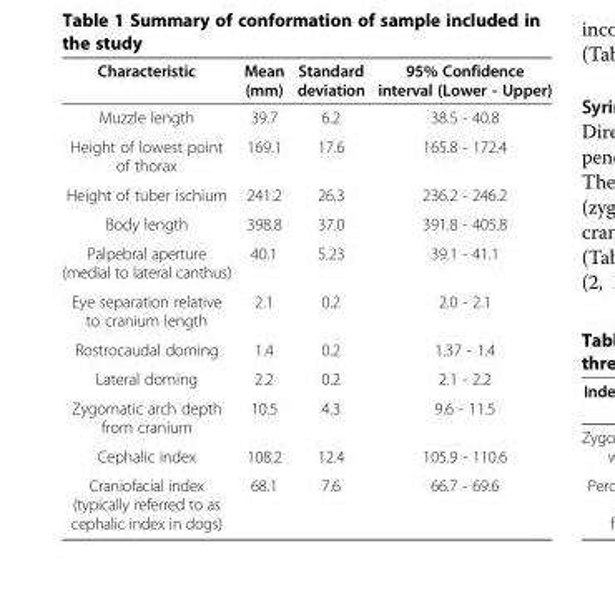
<table><thead><tr><td>Characteristic</td><td>Mean (mm)</td><td>Standard deviation</td><td>95% Confidence interval (Lower - Upper)</td></tr></thead><tbody><tr><td>Muzzle length</td><td>39.7</td><td>6.2</td><td>38.5 - 40.8</td></tr><tr><td>Height of lowest point of thorax</td><td>169.1</td><td>17.6</td><td>165.8 - 172.4</td></tr><tr><td>Height of tuber ischium</td><td>241.2</td><td>26.3</td><td>236.2 - 246.2</td></tr><tr><td>Body length</td><td>398.8</td><td>37.0</td><td>391.8 - 405.8</td></tr><tr><td>Palpebral aperture (medial to lateral canthus)</td><td>40.1</td><td>5.23</td><td>39.1 - 41.1</td></tr><tr><td>Eye separation relative to cranium length</td><td>2.1</td><td>0.2</td><td>2.0 - 2.1</td></tr><tr><td>Rostrocaudal doming</td><td>1.4</td><td>0.2</td><td>1.37 - 1.4</td></tr><tr><td>Lateral doming</td><td>2.2</td><td>0.2</td><td>2.1 - 2.2</td></tr><tr><td>Zygomatic arch depth from cranium</td><td>10.5</td><td>4.3</td><td>9.6 - 11.5</td></tr><tr><td>Cephalic index</td><td>108.2</td><td>12.4</td><td>105.9 - 110.6</td></tr><tr><td>Craniofacial index (typically referred to as cephalic index in dogs)</td><td>68.1</td><td>7.6</td><td>66.7 - 69.6</td></tr></tbody></table>